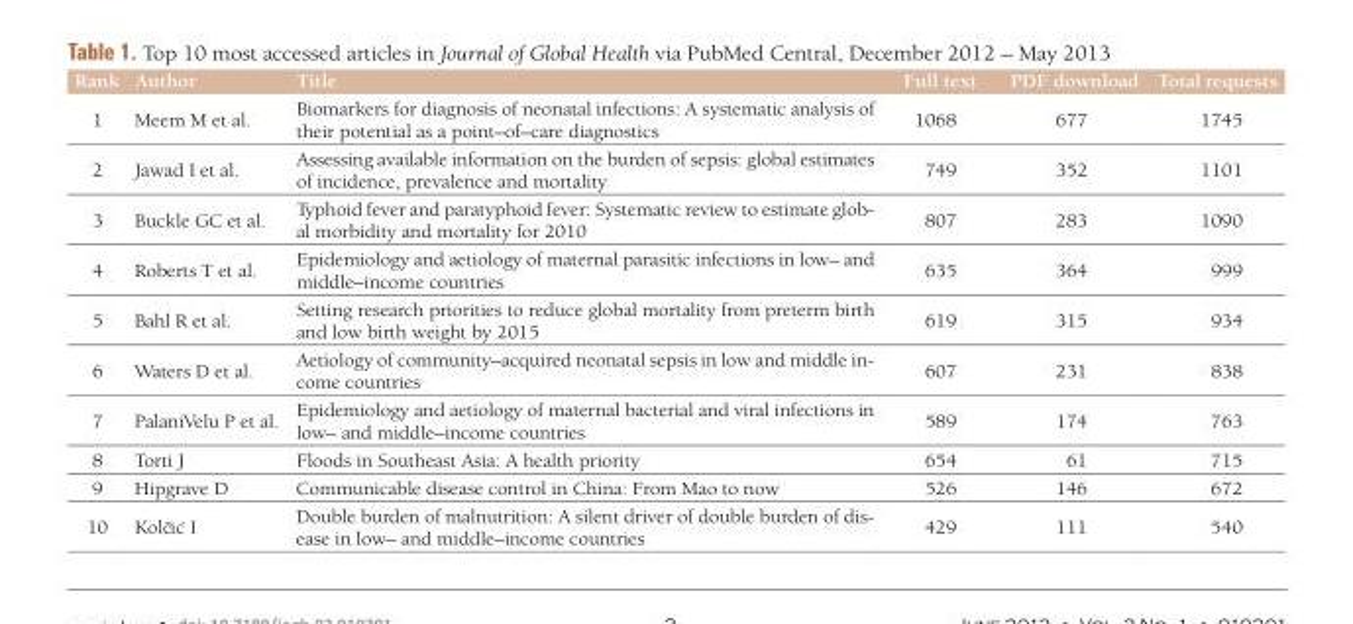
<table><thead><tr><td>Rank</td><td>Author</td><td>Title</td><td>Full text</td><td>PDF download</td><td>Total requests</td></tr></thead><tbody><tr><td>1</td><td>Meem M et al.</td><td>Biomarkers for diagnosis of neonatal infections: A systematic analysis of their potential as a point–of–care diagnostics</td><td>1068</td><td>677</td><td>1745</td></tr><tr><td>2</td><td>Jawad I et al.</td><td>Assessing available information on the burden of sepsis: global estimates of incidence, prevalence and mortality</td><td>749</td><td>352</td><td>1101</td></tr><tr><td>3</td><td>Buckle GC et al.</td><td>Typhoid fever and paratyphoid fever: Systematic review to estimate glob- al morbidity and mortality for 2010</td><td>807</td><td>283</td><td>1090</td></tr><tr><td>4</td><td>Roberts T et al.</td><td>Epidemiology and aetiology of maternal parasitic infections in low– and middle–income countries</td><td>635</td><td>364</td><td>999</td></tr><tr><td>5</td><td>Bahl R et al.</td><td>Setting research priorities to reduce global mortality from preterm birth and low birth weight by 2015</td><td>619</td><td>315</td><td>934</td></tr><tr><td>6</td><td>Waters D et al.</td><td>Aetiology of community–acquired neonatal sepsis in low and middle in- come countries</td><td>607</td><td>231</td><td>838</td></tr><tr><td>7</td><td>PalaniVelu P et al.</td><td>Epidemiology and aetiology of maternal bacterial and viral infections in low– and middle–income countries</td><td>589</td><td>174</td><td>763</td></tr><tr><td>8</td><td>Torti J</td><td>Floods in Southeast Asia: A health priority</td><td>654</td><td>61</td><td>715</td></tr><tr><td>9</td><td>Hipgrave D</td><td>Communicable disease control in China: From Mao to now</td><td>526</td><td>146</td><td>672</td></tr><tr><td>10</td><td>Kolcˇic´ I</td><td>Double burden of malnutrition: A silent driver of double burden of dis- ease in low– and middle–income countries</td><td>429</td><td>111</td><td>540</td></tr></tbody></table>